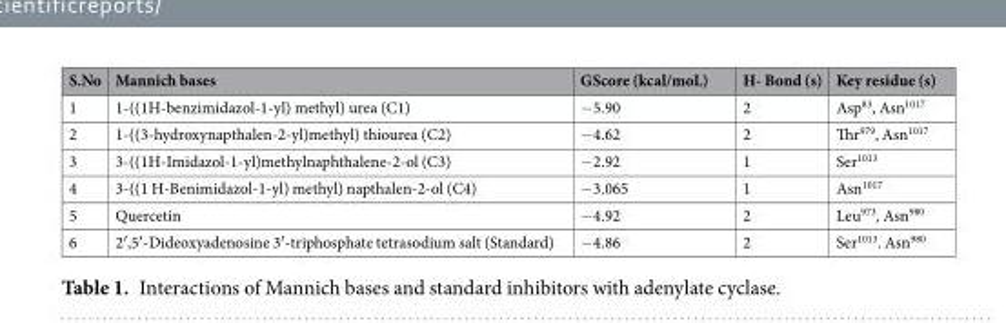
<table><thead><tr><td>S.No</td><td>Mannich bases</td><td>GScore (kcal/moL)</td><td>H- Bond (s)</td><td>Key residue (s)</td></tr></thead><tbody><tr><td>1</td><td>1-((1H-benzimidazol-1-yl) methyl) urea (C1)</td><td>−5.90</td><td>2</td><td>Asp<sup>83</sup>, Asn<sup>1017</sup></td></tr><tr><td>2</td><td>1-((3-hydroxynapthalen-2-yl)methyl) thiourea (C2)</td><td>−4.62</td><td>2</td><td>Thr<sup>979</sup>, Asn<sup>1017</sup></td></tr><tr><td>3</td><td>3-((1H-Imidazol-1-yl)methylnaphthalene-2-ol (C3)</td><td>−2.92</td><td>1</td><td>Ser<sup>1013</sup></td></tr><tr><td>4</td><td>3-((1 H-Benimidazol-1-yl) methyl) napthalen-2-ol (C4)</td><td>−3.065</td><td>1</td><td>Asn<sup>1017</sup></td></tr><tr><td>5</td><td>Quercetin</td><td>−4.92</td><td>2</td><td>Leu<sup>973</sup>, Asn<sup>980</sup></td></tr><tr><td>6</td><td>2′,5′-Dideoxyadenosine 3′-triphosphate tetrasodium salt (Standard)</td><td>−4.86</td><td>2</td><td>Ser<sup>1013</sup>. Asn<sup>980</sup></td></tr></tbody></table>